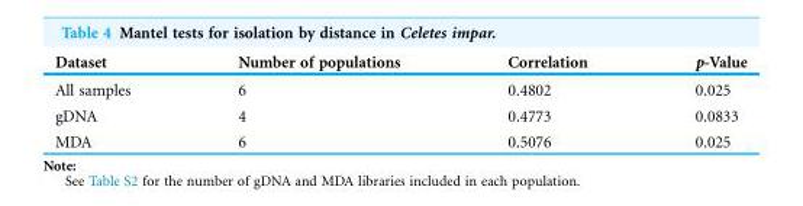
<table><thead><tr><td>Dataset</td><td>Number of populations</td><td>Correlation</td><td>p-Value</td></tr></thead><tbody><tr><td>All samples</td><td>6</td><td>0.4802</td><td>0.025</td></tr><tr><td>gDNA</td><td>4</td><td>0.4773</td><td>0.0833</td></tr><tr><td>MDA</td><td>6</td><td>0.5076</td><td>0.025</td></tr></tbody></table>